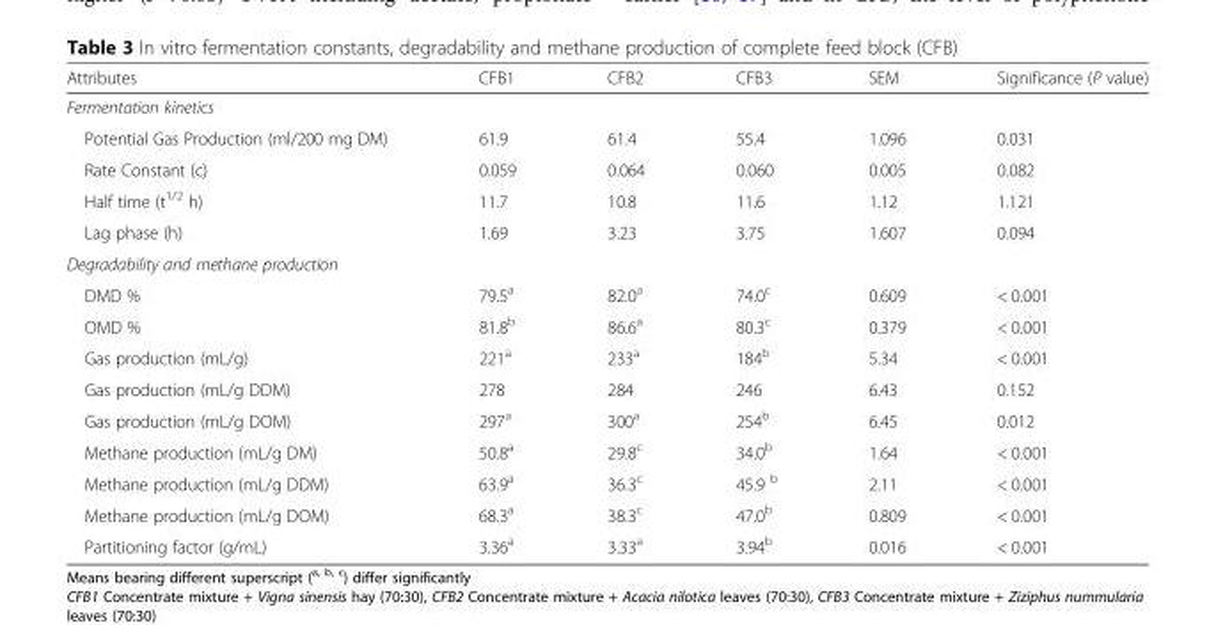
<table><thead><tr><td>Attributes</td><td>CFB1</td><td>CFB2</td><td>CFB3</td><td>SEM</td><td>Significance (P value)</td></tr></thead><tbody><tr><td colspan="6">Fermentation kinetics</td></tr><tr><td>Potential Gas Production (ml/200 mg DM)</td><td>61.9</td><td>61.4</td><td>55.4</td><td>1.096</td><td>0.031</td></tr><tr><td>Rate Constant (c)</td><td>0.059</td><td>0.064</td><td>0.060</td><td>0.005</td><td>0.082</td></tr><tr><td>Half time (t<sup>1/2</sup> h)</td><td>11.7</td><td>10.8</td><td>11.6</td><td>1.12</td><td>1.121</td></tr><tr><td>Lag phase (h)</td><td>1.69</td><td>3.23</td><td>3.75</td><td>1.607</td><td>0.094</td></tr><tr><td colspan="6">Degradability and methane production</td></tr><tr><td>DMD %</td><td>79.5<sup>a</sup></td><td>82.0<sup>a</sup></td><td>74.0<sup>c</sup></td><td>0.609</td><td>&lt; 0.001</td></tr><tr><td>OMD %</td><td>81.8<sup>b</sup></td><td>86.6<sup>a</sup></td><td>80.3<sup>c</sup></td><td>0.379</td><td>&lt; 0.001</td></tr><tr><td>Gas production (mL/g)</td><td>221<sup>a</sup></td><td>233<sup>a</sup></td><td>184<sup>b</sup></td><td>5.34</td><td>&lt; 0.001</td></tr><tr><td>Gas production (mL/g DDM)</td><td>278</td><td>284</td><td>246</td><td>6.43</td><td>0.152</td></tr><tr><td>Gas production (mL/g DOM)</td><td>297<sup>a</sup></td><td>300<sup>a</sup></td><td>254<sup>b</sup></td><td>6.45</td><td>0.012</td></tr><tr><td>Methane production (mL/g DM)</td><td>50.8<sup>a</sup></td><td>29.8<sup>c</sup></td><td>34.0<sup>b</sup></td><td>1.64</td><td>&lt; 0.001</td></tr><tr><td>Methane production (mL/g DDM)</td><td>63.9<sup>a</sup></td><td>36.3<sup>c</sup></td><td>45.9 <sup>b</sup></td><td>2.11</td><td>&lt; 0.001</td></tr><tr><td>Methane production (mL/g DOM)</td><td>68.3<sup>a</sup></td><td>38.3<sup>c</sup></td><td>47.0<sup>b</sup></td><td>0.809</td><td>&lt; 0.001</td></tr><tr><td>Partitioning factor (g/mL)</td><td>3.36<sup>a</sup></td><td>3.33<sup>a</sup></td><td>3.94<sup>b</sup></td><td>0.016</td><td>&lt; 0.001</td></tr></tbody></table>